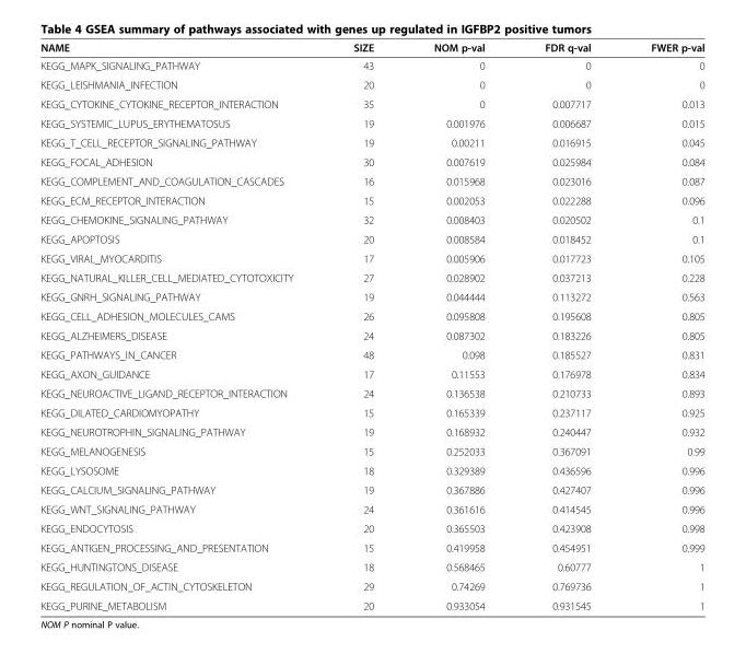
<table><thead><tr><td>NAME</td><td>SIZE</td><td>NOM p-val</td><td>FDR q-val</td><td>FWER p-val</td></tr></thead><tbody><tr><td>KEGG_MAPK_SIGNALING_PATHWAY</td><td>43</td><td>0</td><td>0</td><td>0</td></tr><tr><td>KEGG_LEISHMANIA_INFECTION</td><td>20</td><td>0</td><td>0</td><td>0</td></tr><tr><td>KEGG_CYTOKINE_CYTOKINE_RECEPTOR_INTERACTION</td><td>35</td><td>0</td><td>0.007717</td><td>0.013</td></tr><tr><td>KEGG_SYSTEMIC_LUPUS_ERYTHEMATOSUS</td><td>19</td><td>0.001976</td><td>0.006687</td><td>0.015</td></tr><tr><td>KEGG_T_CELL_RECEPTOR_SIGNALING_PATHWAY</td><td>19</td><td>0.00211</td><td>0.016915</td><td>0.045</td></tr><tr><td>KEGG_FOCAL_ADHESION</td><td>30</td><td>0.007619</td><td>0.025984</td><td>0.084</td></tr><tr><td>KEGG_COMPLEMENT_AND_COAGULATION_CASCADES</td><td>16</td><td>0.015968</td><td>0.023016</td><td>0.087</td></tr><tr><td>KEGG_ECM_RECEPTOR_INTERACTION</td><td>15</td><td>0.002053</td><td>0.022288</td><td>0.096</td></tr><tr><td>KEGG_CHEMOKINE_SIGNALING_PATHWAY</td><td>32</td><td>0.008403</td><td>0.020502</td><td>0.1</td></tr><tr><td>KEGG_APOPTOSIS</td><td>20</td><td>0.008584</td><td>0.018452</td><td>0.1</td></tr><tr><td>KEGG_VIRAL_MYOCARDITIS</td><td>17</td><td>0.005906</td><td>0.017723</td><td>0.105</td></tr><tr><td>KEGG_NATURAL_KILLER_CELL_MEDIATED_CYTOTOXICITY</td><td>27</td><td>0.028902</td><td>0.037213</td><td>0.228</td></tr><tr><td>KEGG_GNRH_SIGNALING_PATHWAY</td><td>19</td><td>0.044444</td><td>0.113272</td><td>0.563</td></tr><tr><td>KEGG_CELL_ADHESION_MOLECULES_CAMS</td><td>26</td><td>0.095808</td><td>0.195608</td><td>0.805</td></tr><tr><td>KEGG_ALZHEIMERS_DISEASE</td><td>24</td><td>0.087302</td><td>0.183226</td><td>0.805</td></tr><tr><td>KEGG_PATHWAYS_IN_CANCER</td><td>48</td><td>0.098</td><td>0.185527</td><td>0.831</td></tr><tr><td>KEGG_AXON_GUIDANCE</td><td>17</td><td>0.11553</td><td>0.176978</td><td>0.834</td></tr><tr><td>KEGG_NEUROACTIVE_LIGAND_RECEPTOR_INTERACTION</td><td>24</td><td>0.136538</td><td>0.210733</td><td>0.893</td></tr><tr><td>KEGG_DILATED_CARDIOMYOPATHY</td><td>15</td><td>0.165339</td><td>0.237117</td><td>0.925</td></tr><tr><td>KEGG_NEUROTROPHIN_SIGNALING_PATHWAY</td><td>19</td><td>0.168932</td><td>0.240447</td><td>0.932</td></tr><tr><td>KEGG_MELANOGENESIS</td><td>15</td><td>0.252033</td><td>0.367091</td><td>0.99</td></tr><tr><td>KEGG_LYSOSOME</td><td>18</td><td>0.329389</td><td>0.436596</td><td>0.996</td></tr><tr><td>KEGG_CALCIUM_SIGNALING_PATHWAY</td><td>19</td><td>0.367886</td><td>0.427407</td><td>0.996</td></tr><tr><td>KEGG_WNT_SIGNALING_PATHWAY</td><td>24</td><td>0.361616</td><td>0.414545</td><td>0.996</td></tr><tr><td>KEGG_ENDOCYTOSIS</td><td>20</td><td>0.365503</td><td>0.423908</td><td>0.998</td></tr><tr><td>KEGG_ANTIGEN_PROCESSING_AND_PRESENTATION</td><td>15</td><td>0.419958</td><td>0.454951</td><td>0.999</td></tr><tr><td>KEGG_HUNTINGTONS_DISEASE</td><td>18</td><td>0.568465</td><td>0.60777</td><td>1</td></tr><tr><td>KEGG_REGULATION_OF_ACTIN_CYTOSKELETON</td><td>29</td><td>0.74269</td><td>0.769736</td><td>1</td></tr><tr><td>KEGG_PURINE_METABOLISM</td><td>20</td><td>0.933054</td><td>0.931545</td><td>1</td></tr></tbody></table>